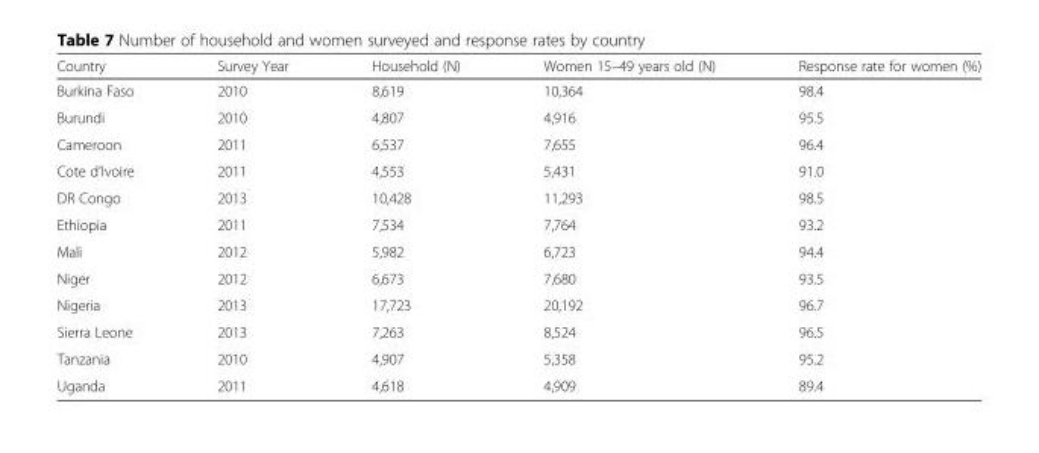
<table><thead><tr><td>Country</td><td>Survey Year</td><td>Household (N)</td><td>Women 15–49 years old (N)</td><td>Response rate for women (%)</td></tr></thead><tbody><tr><td>Burkina Faso</td><td>2010</td><td>8,619</td><td>10,364</td><td>98.4</td></tr><tr><td>Burundi</td><td>2010</td><td>4,807</td><td>4,916</td><td>95.5</td></tr><tr><td>Cameroon</td><td>2011</td><td>6,537</td><td>7,655</td><td>96.4</td></tr><tr><td>Cote d’Ivoire</td><td>2011</td><td>4,553</td><td>5,431</td><td>91.0</td></tr><tr><td>DR Congo</td><td>2013</td><td>10,428</td><td>11,293</td><td>98.5</td></tr><tr><td>Ethiopia</td><td>2011</td><td>7,534</td><td>7,764</td><td>93.2</td></tr><tr><td>Mali</td><td>2012</td><td>5,982</td><td>6,723</td><td>94.4</td></tr><tr><td>Niger</td><td>2012</td><td>6,673</td><td>7,680</td><td>93.5</td></tr><tr><td>Nigeria</td><td>2013</td><td>17,723</td><td>20,192</td><td>96.7</td></tr><tr><td>Sierra Leone</td><td>2013</td><td>7,263</td><td>8,524</td><td>96.5</td></tr><tr><td>Tanzania</td><td>2010</td><td>4,907</td><td>5,358</td><td>95.2</td></tr><tr><td>Uganda</td><td>2011</td><td>4,618</td><td>4,909</td><td>89.4</td></tr></tbody></table>